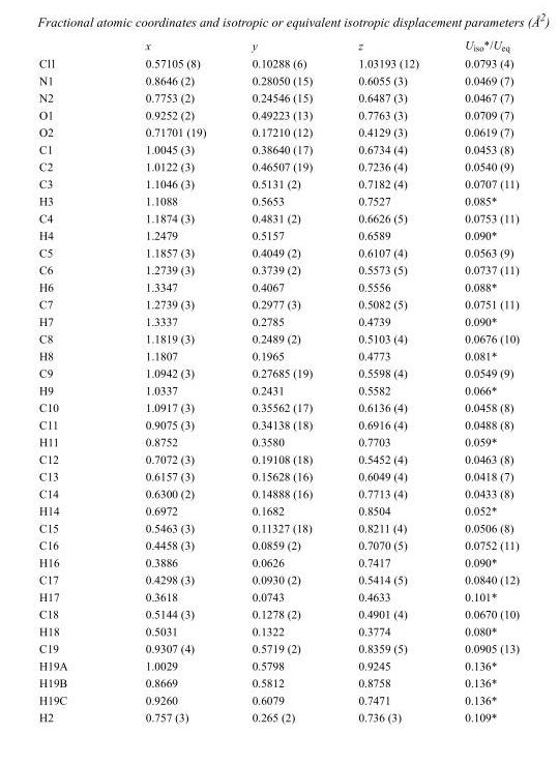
<table><thead><tr><td></td><td>x</td><td>y</td><td>z</td><td>U<sub>iso</sub>*/U<sub>eq</sub></td></tr></thead><tbody><tr><td>Cl1</td><td>0.57105 (8)</td><td>0.10288 (6)</td><td>1.03193 (12)</td><td>0.0793 (4)</td></tr><tr><td>N1</td><td>0.8646 (2)</td><td>0.28050 (15)</td><td>0.6055 (3)</td><td>0.0469 (7)</td></tr><tr><td>N2</td><td>0.7753 (2)</td><td>0.24546 (15)</td><td>0.6487 (3)</td><td>0.0467 (7)</td></tr><tr><td>O1</td><td>0.9252 (2)</td><td>0.49223 (13)</td><td>0.7763 (3)</td><td>0.0709 (7)</td></tr><tr><td>O2</td><td>0.71701 (19)</td><td>0.17210 (12)</td><td>0.4129 (3)</td><td>0.0619 (7)</td></tr><tr><td>C1</td><td>1.0045 (3)</td><td>0.38640 (17)</td><td>0.6734 (4)</td><td>0.0453 (8)</td></tr><tr><td>C2</td><td>1.0122 (3)</td><td>0.46507 (19)</td><td>0.7236 (4)</td><td>0.0540 (9)</td></tr><tr><td>C3</td><td>1.1046 (3)</td><td>0.5131 (2)</td><td>0.7182 (4)</td><td>0.0707 (11)</td></tr><tr><td>H3</td><td>1.1088</td><td>0.5653</td><td>0.7527</td><td>0.085*</td></tr><tr><td>C4</td><td>1.1874 (3)</td><td>0.4831 (2)</td><td>0.6626 (5)</td><td>0.0753 (11)</td></tr><tr><td>H4</td><td>1.2479</td><td>0.5157</td><td>0.6589</td><td>0.090*</td></tr><tr><td>C5</td><td>1.1857 (3)</td><td>0.4049 (2)</td><td>0.6107 (4)</td><td>0.0563 (9)</td></tr><tr><td>C6</td><td>1.2739 (3)</td><td>0.3739 (2)</td><td>0.5573 (5)</td><td>0.0737 (11)</td></tr><tr><td>H6</td><td>1.3347</td><td>0.4067</td><td>0.5556</td><td>0.088*</td></tr><tr><td>C7</td><td>1.2739 (3)</td><td>0.2977 (3)</td><td>0.5082 (5)</td><td>0.0751 (11)</td></tr><tr><td>H7</td><td>1.3337</td><td>0.2785</td><td>0.4739</td><td>0.090*</td></tr><tr><td>C8</td><td>1.1819 (3)</td><td>0.2489 (2)</td><td>0.5103 (4)</td><td>0.0676 (10)</td></tr><tr><td>H8</td><td>1.1807</td><td>0.1965</td><td>0.4773</td><td>0.081*</td></tr><tr><td>C9</td><td>1.0942 (3)</td><td>0.27685 (19)</td><td>0.5598 (4)</td><td>0.0549 (9)</td></tr><tr><td>H9</td><td>1.0337</td><td>0.2431</td><td>0.5582</td><td>0.066*</td></tr><tr><td>C10</td><td>1.0917 (3)</td><td>0.35562 (17)</td><td>0.6136 (4)</td><td>0.0458 (8)</td></tr><tr><td>C11</td><td>0.9075 (3)</td><td>0.34138 (18)</td><td>0.6916 (4)</td><td>0.0488 (8)</td></tr><tr><td>H11</td><td>0.8752</td><td>0.3580</td><td>0.7703</td><td>0.059*</td></tr><tr><td>C12</td><td>0.7072 (3)</td><td>0.19108 (18)</td><td>0.5452 (4)</td><td>0.0463 (8)</td></tr><tr><td>C13</td><td>0.6157 (3)</td><td>0.15628 (16)</td><td>0.6049 (4)</td><td>0.0418 (7)</td></tr><tr><td>C14</td><td>0.6300 (2)</td><td>0.14888 (16)</td><td>0.7713 (4)</td><td>0.0433 (8)</td></tr><tr><td>H14</td><td>0.6972</td><td>0.1682</td><td>0.8504</td><td>0.052*</td></tr><tr><td>C15</td><td>0.5463 (3)</td><td>0.11327 (18)</td><td>0.8211 (4)</td><td>0.0506 (8)</td></tr><tr><td>C16</td><td>0.4458 (3)</td><td>0.0859 (2)</td><td>0.7070 (5)</td><td>0.0752 (11)</td></tr><tr><td>H16</td><td>0.3886</td><td>0.0626</td><td>0.7417</td><td>0.090*</td></tr><tr><td>C17</td><td>0.4298 (3)</td><td>0.0930 (2)</td><td>0.5414 (5)</td><td>0.0840 (12)</td></tr><tr><td>H17</td><td>0.3618</td><td>0.0743</td><td>0.4633</td><td>0.101*</td></tr><tr><td>C18</td><td>0.5144 (3)</td><td>0.1278 (2)</td><td>0.4901 (4)</td><td>0.0670 (10)</td></tr><tr><td>H18</td><td>0.5031</td><td>0.1322</td><td>0.3774</td><td>0.080*</td></tr><tr><td>C19</td><td>0.9307 (4)</td><td>0.5719 (2)</td><td>0.8359 (5)</td><td>0.0905 (13)</td></tr><tr><td>H19A</td><td>1.0029</td><td>0.5798</td><td>0.9245</td><td>0.136*</td></tr><tr><td>H19B</td><td>0.8669</td><td>0.5812</td><td>0.8758</td><td>0.136*</td></tr><tr><td>H19C</td><td>0.9260</td><td>0.6079</td><td>0.7471</td><td>0.136*</td></tr><tr><td>H2</td><td>0.757 (3)</td><td>0.265 (2)</td><td>0.736 (3)</td><td>0.109*</td></tr></tbody></table>